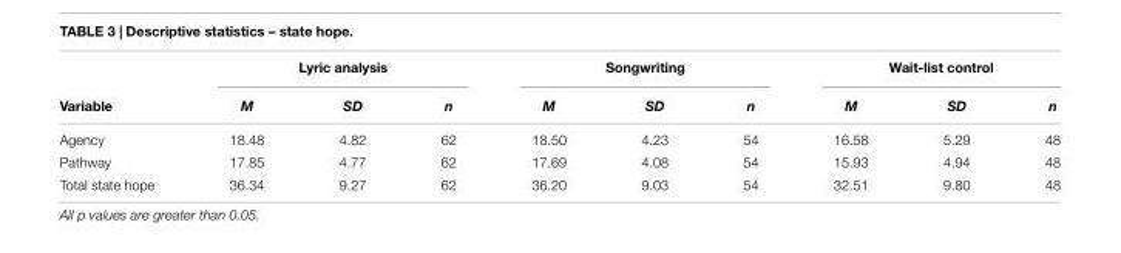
<table><thead><tr><td rowspan="2">Variable</td><td colspan="3">Lyric analysis</td><td colspan="3">Songwriting</td><td colspan="3">Wait-list control</td></tr><tr><td>M</td><td>SD</td><td>n</td><td>M</td><td>SD</td><td>n</td><td>M</td><td>SD</td><td>n</td></tr></thead><tbody><tr><td>Agency</td><td>18.48</td><td>4.82</td><td>62</td><td>18.50</td><td>4.23</td><td>54</td><td>16.58</td><td>5.29</td><td>48</td></tr><tr><td>Pathway</td><td>17.85</td><td>4.77</td><td>62</td><td>17.69</td><td>4.08</td><td>54</td><td>15.93</td><td>4.94</td><td>48</td></tr><tr><td>Total state hope</td><td>36.34</td><td>9.27</td><td>62</td><td>36.20</td><td>9.03</td><td>54</td><td>32.51</td><td>9.80</td><td>48</td></tr></tbody></table>